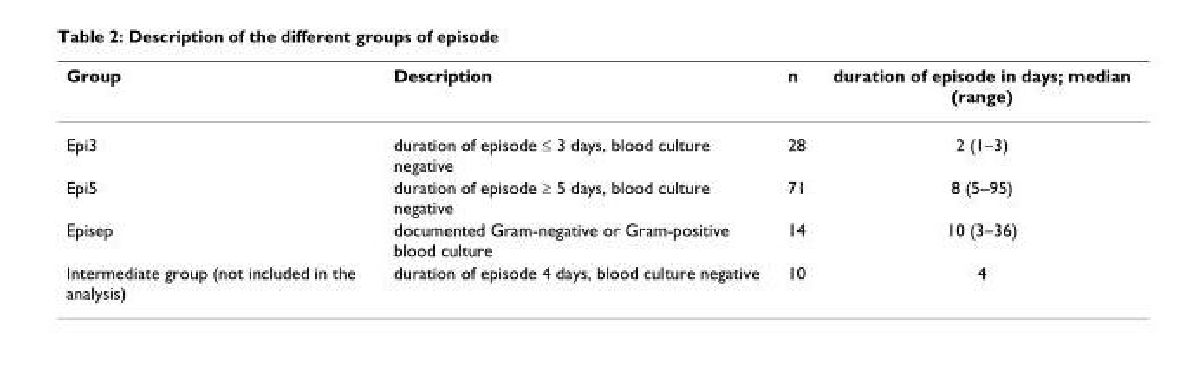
<table><thead><tr><td>Group</td><td>Description</td><td>n</td><td>duration of episode in days; median (range)</td></tr></thead><tbody><tr><td>Epi3</td><td>duration of episode ≤ 3 days, blood culture negative</td><td>28</td><td>2 (1–3)</td></tr><tr><td>Epi5</td><td>duration of episode ≥ 5 days, blood culture negative</td><td>71</td><td>8 (5–95)</td></tr><tr><td>Episep</td><td>documented Gram-negative or Gram-positive blood culture</td><td>14</td><td>10 (3–36)</td></tr><tr><td>Intermediate group (not included in the analysis)</td><td>duration of episode 4 days, blood culture negative</td><td>10</td><td>4</td></tr></tbody></table>